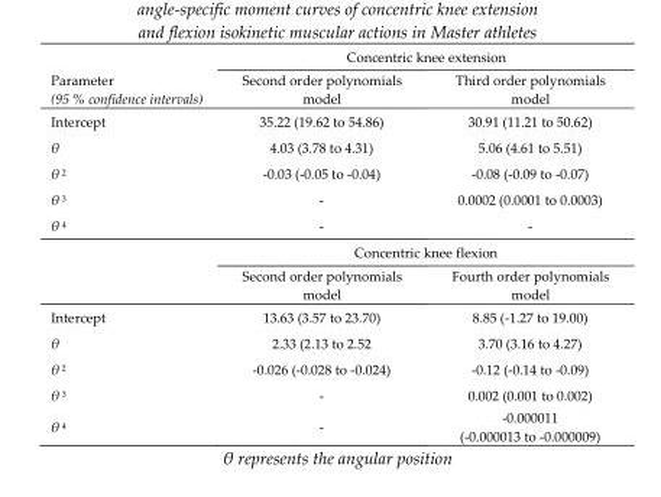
<table><thead><tr><td rowspan="2">Parameter (95 % confidence intervals)</td><td colspan="2">Concentric knee extension</td></tr><tr><td>Second order polynomials model</td><td>Third order polynomials model</td></tr></thead><tbody><tr><td>Intercept</td><td>35.22 (19.62 to 54.86)</td><td>30.91 (11.21 to 50.62)</td></tr><tr><td>θ</td><td>4.03 (3.78 to 4.31)</td><td>5.06 (4.61 to 5.51)</td></tr><tr><td>θ <sup>2</sup></td><td>-0.03 (-0.05 to -0.04)</td><td>-0.08 (-0.09 to -0.07)</td></tr><tr><td>θ <sup>3</sup></td><td>-</td><td>0.0002 (0.0001 to 0.0003)</td></tr><tr><td rowspan="3">θ <sup>4</sup></td><td>-</td><td>-</td></tr><tr><td colspan="2">Concentric knee flexion</td></tr><tr><td>Second order polynomials model</td><td>Fourth order polynomials model</td></tr><tr><td>Intercept</td><td>13.63 (3.57 to 23.70)</td><td>8.85 (-1.27 to 19.00)</td></tr><tr><td>θ</td><td>2.33 (2.13 to 2.52</td><td>3.70 (3.16 to 4.27)</td></tr><tr><td>θ <sup>2</sup></td><td>-0.026 (-0.028 to -0.024)</td><td>-0.12 (-0.14 to -0.09)</td></tr><tr><td>θ <sup>3</sup></td><td>-</td><td>0.002 (0.001 to 0.002)</td></tr><tr><td>θ <sup>4</sup></td><td>-</td><td>-0.000011 (-0.000013 to -0.000009)</td></tr></tbody></table>